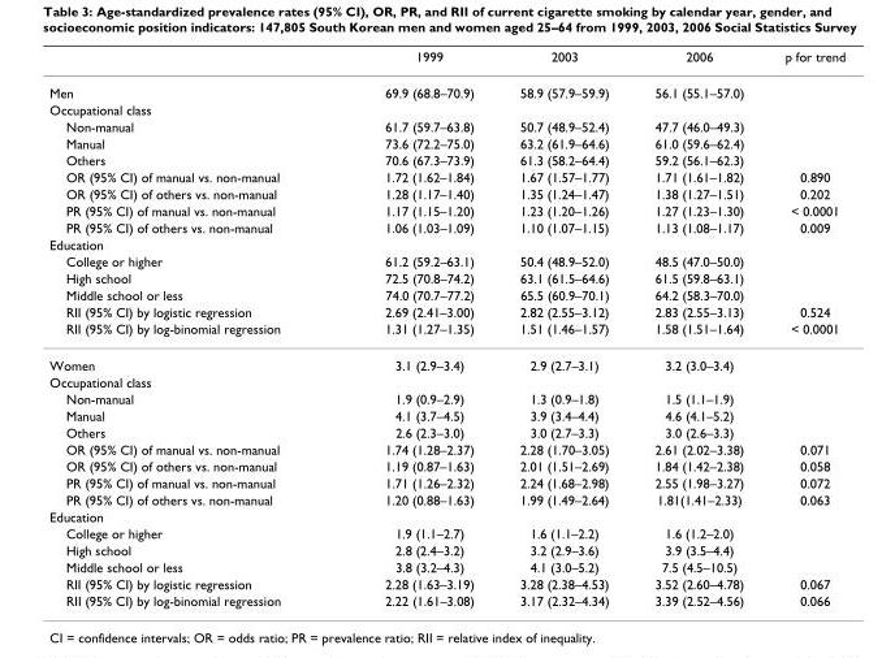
<table><thead><tr><td></td><td>1999</td><td>2003</td><td>2006</td><td>p for trend</td></tr></thead><tbody><tr><td>Men</td><td>69.9 (68.8–70.9)</td><td>58.9 (57.9–59.9)</td><td>56.1 (55.1–57.0)</td><td></td></tr><tr><td colspan="5">Occupational class</td></tr><tr><td>Non-manual</td><td>61.7 (59.7–63.8)</td><td>50.7 (48.9–52.4)</td><td>47.7 (46.0–49.3)</td><td></td></tr><tr><td>Manual</td><td>73.6 (72.2–75.0)</td><td>63.2 (61.9–64.6)</td><td>61.0 (59.6–62.4)</td><td></td></tr><tr><td>Others</td><td>70.6 (67.3–73.9)</td><td>61.3 (58.2–64.4)</td><td>59.2 (56.1–62.3)</td><td></td></tr><tr><td>OR (95% CI) of manual vs. non-manual</td><td>1.72 (1.62–1.84)</td><td>1.67 (1.57–1.77)</td><td>1.71 (1.61–1.82)</td><td>0.890</td></tr><tr><td>OR (95% CI) of others vs. non-manual</td><td>1.28 (1.17–1.40)</td><td>1.35 (1.24–1.47)</td><td>1.38 (1.27–1.51)</td><td>0.202</td></tr><tr><td>PR (95% CI) of manual vs. non-manual</td><td>1.17 (1.15–1.20)</td><td>1.23 (1.20–1.26)</td><td>1.27 (1.23–1.30)</td><td>&lt; 0.0001</td></tr><tr><td>PR (95% CI) of others vs. non-manual</td><td>1.06 (1.03–1.09)</td><td>1.10 (1.07–1.15)</td><td>1.13 (1.08–1.17)</td><td>0.009</td></tr><tr><td colspan="5">Education</td></tr><tr><td>College or higher</td><td>61.2 (59.2–63.1)</td><td>50.4 (48.9–52.0)</td><td>48.5 (47.0–50.0)</td><td></td></tr><tr><td>High school</td><td>72.5 (70.8–74.2)</td><td>63.1 (61.5–64.6)</td><td>61.5 (59.8–63.1)</td><td></td></tr><tr><td>Middle school or less</td><td>74.0 (70.7–77.2)</td><td>65.5 (60.9–70.1)</td><td>64.2 (58.3–70.0)</td><td></td></tr><tr><td>RII (95% CI) by logistic regression</td><td>2.69 (2.41–3.00)</td><td>2.82 (2.55–3.12)</td><td>2.83 (2.55–3.13)</td><td>0.524</td></tr><tr><td>RII (95% CI) by log-binomial regression</td><td>1.31 (1.27–1.35)</td><td>1.51 (1.46–1.57)</td><td>1.58 (1.51–1.64)</td><td>&lt; 0.0001</td></tr><tr><td>Women</td><td>3.1 (2.9–3.4)</td><td>2.9 (2.7–3.1)</td><td>3.2 (3.0–3.4)</td><td></td></tr><tr><td colspan="5">Occupational class</td></tr><tr><td>Non-manual</td><td>1.9 (0.9–2.9)</td><td>1.3 (0.9–1.8)</td><td>1.5 (1.1–1.9)</td><td></td></tr><tr><td>Manual</td><td>4.1 (3.7–4.5)</td><td>3.9 (3.4–4.4)</td><td>4.6 (4.1–5.2)</td><td></td></tr><tr><td>Others</td><td>2.6 (2.3–3.0)</td><td>3.0 (2.7–3.3)</td><td>3.0 (2.6–3.3)</td><td></td></tr><tr><td>OR (95% CI) of manual vs. non-manual</td><td>1.74 (1.28–2.37)</td><td>2.28 (1.70–3.05)</td><td>2.61 (2.02–3.38)</td><td>0.071</td></tr><tr><td>OR (95% CI) of others vs. non-manual</td><td>1.19 (0.87–1.63)</td><td>2.01 (1.51–2.69)</td><td>1.84 (1.42–2.38)</td><td>0.058</td></tr><tr><td>PR (95% CI) of manual vs. non-manual</td><td>1.71 (1.26–2.32)</td><td>2.24 (1.68–2.98)</td><td>2.55 (1.98–3.27)</td><td>0.072</td></tr><tr><td>PR (95% CI) of others vs. non-manual</td><td>1.20 (0.88–1.63)</td><td>1.99 (1.49–2.64)</td><td>1.81(1.41–2.33)</td><td>0.063</td></tr><tr><td colspan="5">Education</td></tr><tr><td>College or higher</td><td>1.9 (1.1–2.7)</td><td>1.6 (1.1–2.2)</td><td>1.6 (1.2–2.0)</td><td></td></tr><tr><td>High school</td><td>2.8 (2.4–3.2)</td><td>3.2 (2.9–3.6)</td><td>3.9 (3.5–4.4)</td><td></td></tr><tr><td>Middle school or less</td><td>3.8 (3.2–4.3)</td><td>4.1 (3.0–5.2)</td><td>7.5 (4.5–10.5)</td><td></td></tr><tr><td>RII (95% CI) by logistic regression</td><td>2.28 (1.63–3.19)</td><td>3.28 (2.38–4.53)</td><td>3.52 (2.60–4.78)</td><td>0.067</td></tr><tr><td>RII (95% CI) by log-binomial regression</td><td>2.22 (1.61–3.08)</td><td>3.17 (2.32–4.34)</td><td>3.39 (2.52–4.56)</td><td>0.066</td></tr></tbody></table>